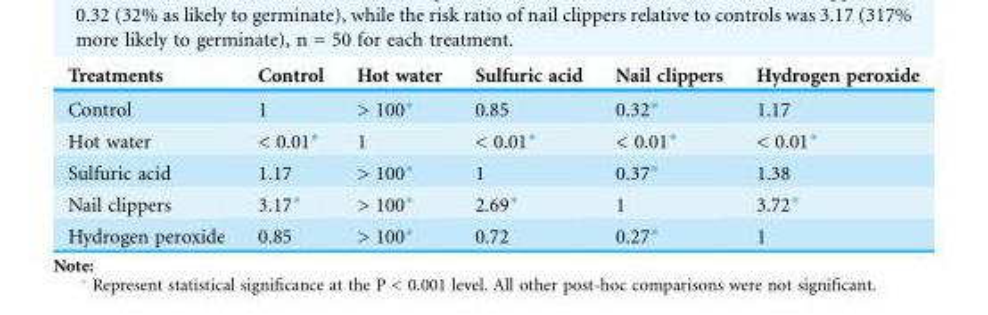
<table><thead><tr><td>Treatments</td><td>Control</td><td>Hot water</td><td>Sulfuric acid</td><td>Nail clippers</td><td>Hydrogen peroxide</td></tr></thead><tbody><tr><td>Control</td><td>1</td><td>&gt; 100*</td><td>0.85</td><td>0.32*</td><td>1.17</td></tr><tr><td>Hot water</td><td>&lt; 0.01*</td><td>1</td><td>&lt; 0.01*</td><td>&lt; 0.01*</td><td>&lt; 0.01*</td></tr><tr><td>Sulfuric acid</td><td>1.17</td><td>&gt; 100*</td><td>1</td><td>0.37*</td><td>1.38</td></tr><tr><td>Nail clippers</td><td>3.17*</td><td>&gt; 100*</td><td>2.69*</td><td>1</td><td>3.72*</td></tr><tr><td>Hydrogen peroxide</td><td>0.85</td><td>&gt; 100*</td><td>0.72</td><td>0.27*</td><td>1</td></tr></tbody></table>